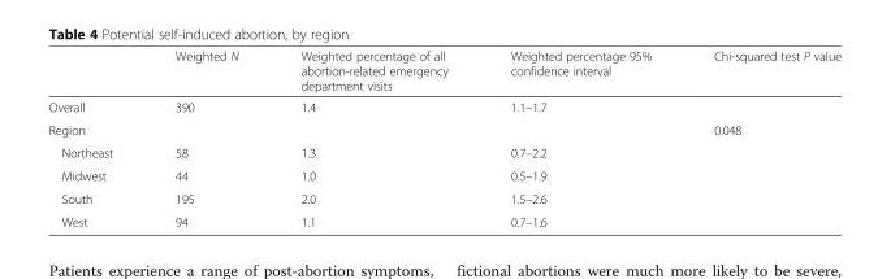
<table><thead><tr><td></td><td>Weighted N</td><td>Weighted percentage of all abortion-related emergency department visits</td><td>Weighted percentage 95% confidence interval</td><td>Chi-squared test P value</td></tr></thead><tbody><tr><td>Overall</td><td>390</td><td>1.4</td><td>1.1–1.7</td><td></td></tr><tr><td>Region</td><td></td><td></td><td></td><td>0.048</td></tr><tr><td>Northeast</td><td>58</td><td>1.3</td><td>0.7–2.2</td><td></td></tr><tr><td>Midwest</td><td>44</td><td>1.0</td><td>0.5–1.9</td><td></td></tr><tr><td>South</td><td>195</td><td>2.0</td><td>1.5–2.6</td><td></td></tr><tr><td>West</td><td>94</td><td>1.1</td><td>0.7–1.6</td><td></td></tr></tbody></table>